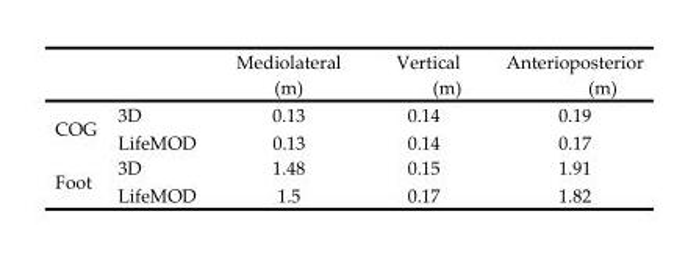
<table><thead><tr><td></td><td></td><td>Mediolateral (m)</td><td>Vertical (m)</td><td>Anterioposterior (m)</td></tr></thead><tbody><tr><td rowspan="2">COG</td><td>3D</td><td>0.13</td><td>0.14</td><td>0.19</td></tr><tr><td>LifeMOD</td><td>0.13</td><td>0.14</td><td>0.17</td></tr><tr><td rowspan="2">Foot</td><td>3D</td><td>1.48</td><td>0.15</td><td>1.91</td></tr><tr><td>LifeMOD</td><td>1.5</td><td>0.17</td><td>1.82</td></tr></tbody></table>